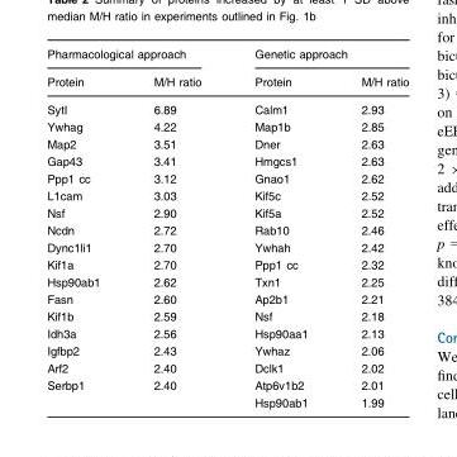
<table><thead><tr><td colspan="2">Pharmacological approach</td><td colspan="2">Genetic approach</td></tr><tr><td>Protein</td><td>M/H ratio</td><td>Protein</td><td>M/H ratio</td></tr></thead><tbody><tr><td>SytI</td><td>6.89</td><td>Calm1</td><td>2.93</td></tr><tr><td>Ywhag</td><td>4.22</td><td>Map1b</td><td>2.85</td></tr><tr><td>Map2</td><td>3.51</td><td>Dner</td><td>2.63</td></tr><tr><td>Gap43</td><td>3.41</td><td>Hmgcs1</td><td>2.63</td></tr><tr><td>Ppp1 cc</td><td>3.12</td><td>Gnao1</td><td>2.62</td></tr><tr><td>L1cam</td><td>3.03</td><td>Kif5c</td><td>2.52</td></tr><tr><td>Nsf</td><td>2.90</td><td>Kif5a</td><td>2.52</td></tr><tr><td>Ncdn</td><td>2.72</td><td>Rab10</td><td>2.46</td></tr><tr><td>Dync1li1</td><td>2.70</td><td>Ywhah</td><td>2.42</td></tr><tr><td>Kif1a</td><td>2.70</td><td>Ppp1 cc</td><td>2.32</td></tr><tr><td>Hsp90ab1</td><td>2.62</td><td>Txn1</td><td>2.25</td></tr><tr><td>Fasn</td><td>2.60</td><td>Ap2b1</td><td>2.21</td></tr><tr><td>Kif1b</td><td>2.59</td><td>Nsf</td><td>2.18</td></tr><tr><td>Idh3a</td><td>2.56</td><td>Hsp90aa1</td><td>2.13</td></tr><tr><td>Igfbp2</td><td>2.43</td><td>Ywhaz</td><td>2.06</td></tr><tr><td>Arf2</td><td>2.40</td><td>Dclk1</td><td>2.02</td></tr><tr><td rowspan="2">Serbp1</td><td>2.40</td><td>Atp6v1b2</td><td>2.01</td></tr><tr><td></td><td>Hsp90ab1</td><td>1.99</td></tr></tbody></table>